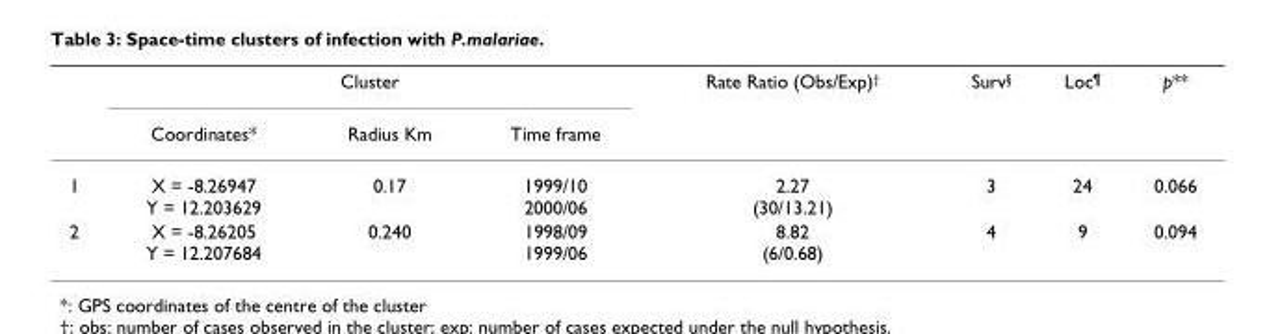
<table><thead><tr><td rowspan="2"></td><td colspan="3">Cluster</td><td rowspan="2">Rate Ratio (Obs/Exp)†</td><td rowspan="2">Surv§</td><td rowspan="2">Loc¶</td><td rowspan="2">p**</td></tr><tr><td>Coordinates*</td><td>Radius Km</td><td>Time frame</td></tr></thead><tbody><tr><td>1</td><td>X = -8.26947 Y = 12.203629</td><td>0.17</td><td>1999/10 2000/06</td><td>2.27 (30/13.21)</td><td>3</td><td>24</td><td>0.066</td></tr><tr><td>2</td><td>X = -8.26205 Y = 12.207684</td><td>0.240</td><td>1998/09 1999/06</td><td>8.82 (6/0.68)</td><td>4</td><td>9</td><td>0.094</td></tr></tbody></table>